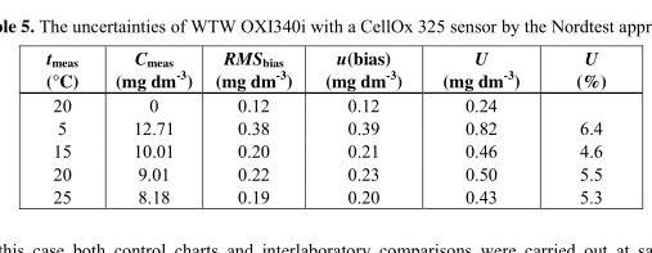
<table><thead><tr><td>t<sub>meas</sub> (°C)</td><td>C<sub>meas</sub> (mg dm<sup>-3</sup>)</td><td>RMS<sub>bias</sub> (mg dm<sup>-3</sup>)</td><td>u(bias) (mg dm<sup>-3</sup>)</td><td>U (mg dm<sup>-3</sup>)</td><td>U (%)</td></tr></thead><tbody><tr><td>20</td><td>0</td><td>0.12</td><td>0.12</td><td>0.24</td><td></td></tr><tr><td>5</td><td>12.71</td><td>0.38</td><td>0.39</td><td>0.82</td><td>6.4</td></tr><tr><td>15</td><td>10.01</td><td>0.20</td><td>0.21</td><td>0.46</td><td>4.6</td></tr><tr><td>20</td><td>9.01</td><td>0.22</td><td>0.23</td><td>0.50</td><td>5.5</td></tr><tr><td>25</td><td>8.18</td><td>0.19</td><td>0.20</td><td>0.43</td><td>5.3</td></tr></tbody></table>